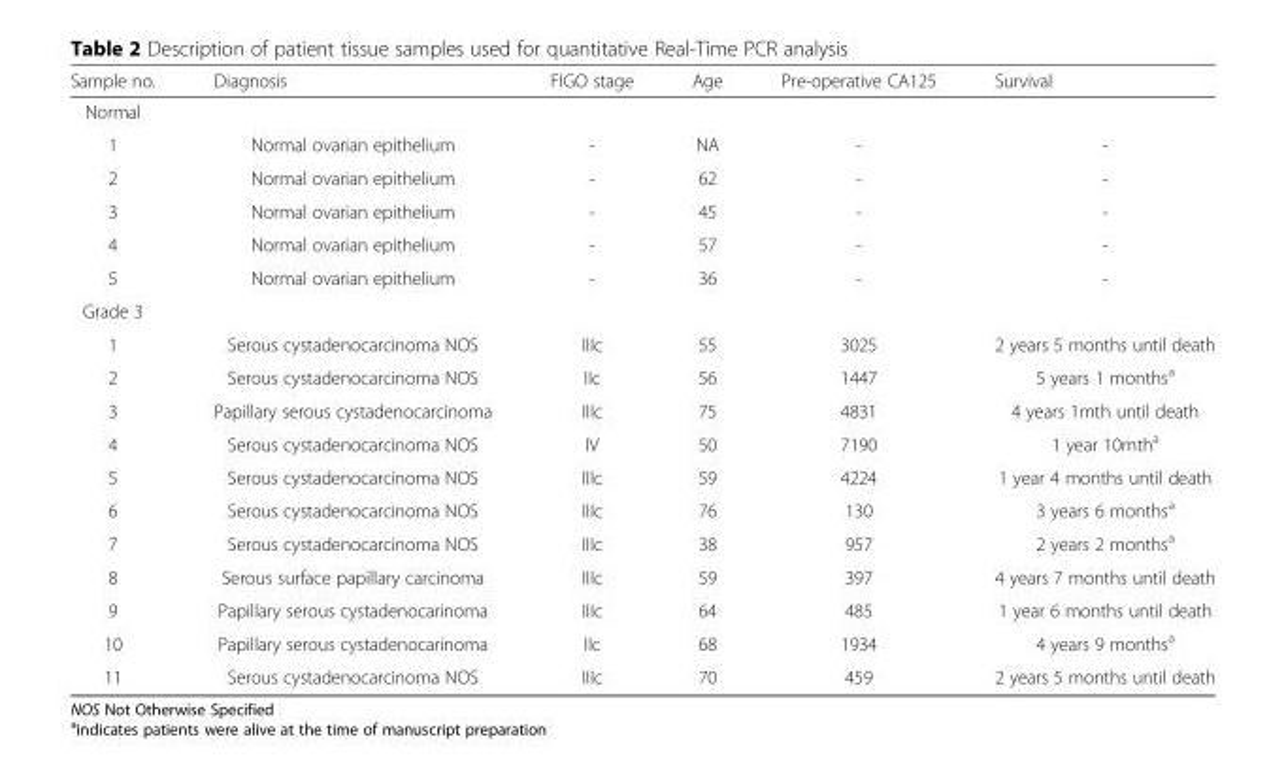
<table><thead><tr><td>Sample no.</td><td>Diagnosis</td><td>FIGO stage</td><td>Age</td><td>Pre-operative CA125</td><td>Survival</td></tr></thead><tbody><tr><td colspan="6">Normal</td></tr><tr><td>1</td><td>Normal ovarian epithelium</td><td>-</td><td>NA</td><td>-</td><td>-</td></tr><tr><td>2</td><td>Normal ovarian epithelium</td><td>-</td><td>62</td><td>-</td><td>-</td></tr><tr><td>3</td><td>Normal ovarian epithelium</td><td>-</td><td>45</td><td>-</td><td>-</td></tr><tr><td>4</td><td>Normal ovarian epithelium</td><td>-</td><td>57</td><td>-</td><td>-</td></tr><tr><td>5</td><td>Normal ovarian epithelium</td><td>-</td><td>36</td><td>-</td><td>-</td></tr><tr><td colspan="6">Grade 3</td></tr><tr><td>1</td><td>Serous cystadenocarcinoma NOS</td><td>IIIc</td><td>55</td><td>3025</td><td>2 years 5 months until death</td></tr><tr><td>2</td><td>Serous cystadenocarcinoma NOS</td><td>IIc</td><td>56</td><td>1447</td><td>5 years 1 months<sup>a</sup></td></tr><tr><td>3</td><td>Papillary serous cystadenocarcinoma</td><td>IIIc</td><td>75</td><td>4831</td><td>4 years 1mth until death</td></tr><tr><td>4</td><td>Serous cystadenocarcinoma NOS</td><td>IV</td><td>50</td><td>7190</td><td>1 year 10mth<sup>a</sup></td></tr><tr><td>5</td><td>Serous cystadenocarcinoma NOS</td><td>IIIc</td><td>59</td><td>4224</td><td>1 year 4 months until death</td></tr><tr><td>6</td><td>Serous cystadenocarcinoma NOS</td><td>IIIc</td><td>76</td><td>130</td><td>3 years 6 months<sup>a</sup></td></tr><tr><td>7</td><td>Serous cystadenocarcinoma NOS</td><td>IIIc</td><td>38</td><td>957</td><td>2 years 2 months<sup>a</sup></td></tr><tr><td>8</td><td>Serous surface papillary carcinoma</td><td>IIIc</td><td>59</td><td>397</td><td>4 years 7 months until death</td></tr><tr><td>9</td><td>Papillary serous cystadenocarinoma</td><td>IIIc</td><td>64</td><td>485</td><td>1 year 6 months until death</td></tr><tr><td>10</td><td>Papillary serous cystadenocarinoma</td><td>IIc</td><td>68</td><td>1934</td><td>4 years 9 months<sup>a</sup></td></tr><tr><td>11</td><td>Serous cystadenocarcinoma NOS</td><td>IIIc</td><td>70</td><td>459</td><td>2 years 5 months until death</td></tr></tbody></table>